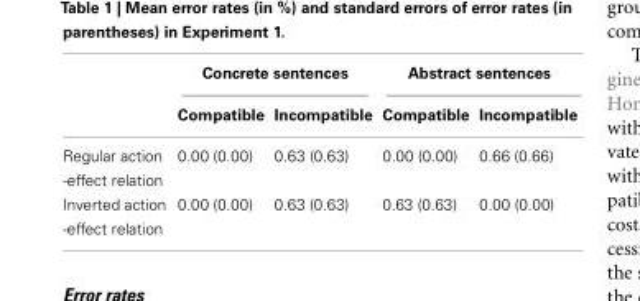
<table><thead><tr><td rowspan="2"></td><td colspan="2">Concrete sentences</td><td colspan="2">Abstract sentences</td></tr><tr><td>Compatible</td><td>Incompatible</td><td>Compatible</td><td>Incompatible</td></tr></thead><tbody><tr><td>Regular action -effect relation</td><td>0.00 (0.00)</td><td>0.63 (0.63)</td><td>0.00 (0.00)</td><td>0.66 (0.66)</td></tr><tr><td>Inverted action -effect relation</td><td>0.00 (0.00)</td><td>0.63 (0.63)</td><td>0.63 (0.63)</td><td>0.00 (0.00)</td></tr></tbody></table>